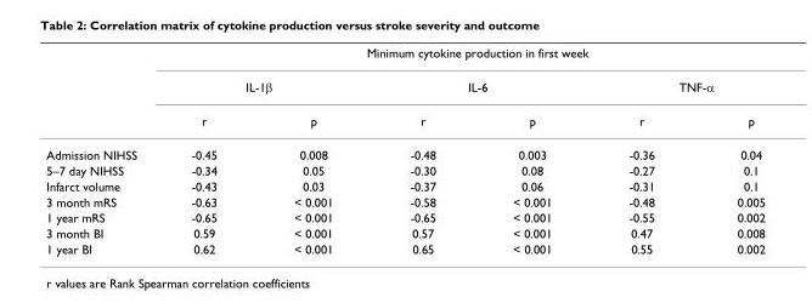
<table><thead><tr><td rowspan="3"></td><td colspan="6">Minimum cytokine production in first week</td></tr><tr><td colspan="2">IL-1β</td><td colspan="2">IL-6</td><td colspan="2">TNF-α</td></tr><tr><td>r</td><td>p</td><td>r</td><td>p</td><td>r</td><td>p</td></tr></thead><tbody><tr><td>Admission NIHSS</td><td>-0.45</td><td>0.008</td><td>-0.48</td><td>0.003</td><td>-0.36</td><td>0.04</td></tr><tr><td>5–7 day NIHSS</td><td>-0.34</td><td>0.05</td><td>-0.30</td><td>0.08</td><td>-0.27</td><td>0.1</td></tr><tr><td>Infarct volume</td><td>-0.43</td><td>0.03</td><td>-0.37</td><td>0.06</td><td>-0.31</td><td>0.1</td></tr><tr><td>3 month mRS</td><td>-0.63</td><td>&lt; 0.001</td><td>-0.58</td><td>&lt; 0.001</td><td>-0.48</td><td>0.005</td></tr><tr><td>1 year mRS</td><td>-0.65</td><td>&lt; 0.001</td><td>-0.65</td><td>&lt; 0.001</td><td>-0.55</td><td>0.002</td></tr><tr><td>3 month BI</td><td>0.59</td><td>&lt; 0.001</td><td>0.57</td><td>&lt; 0.001</td><td>0.47</td><td>0.008</td></tr><tr><td>1 year BI</td><td>0.62</td><td>&lt; 0.001</td><td>0.65</td><td>&lt; 0.001</td><td>0.55</td><td>0.002</td></tr></tbody></table>